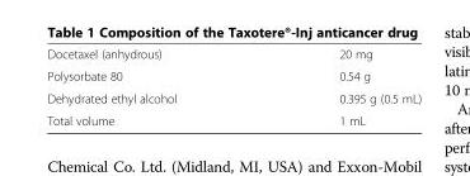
<table><tbody><tr><td>Docetaxel (anhydrous)</td><td>20 mg</td></tr><tr><td>Polysorbate 80</td><td>0.54 g</td></tr><tr><td>Dehydrated ethyl alcohol</td><td>0.395 g (0.5 mL)</td></tr><tr><td>Total volume</td><td>1 mL</td></tr></tbody></table>